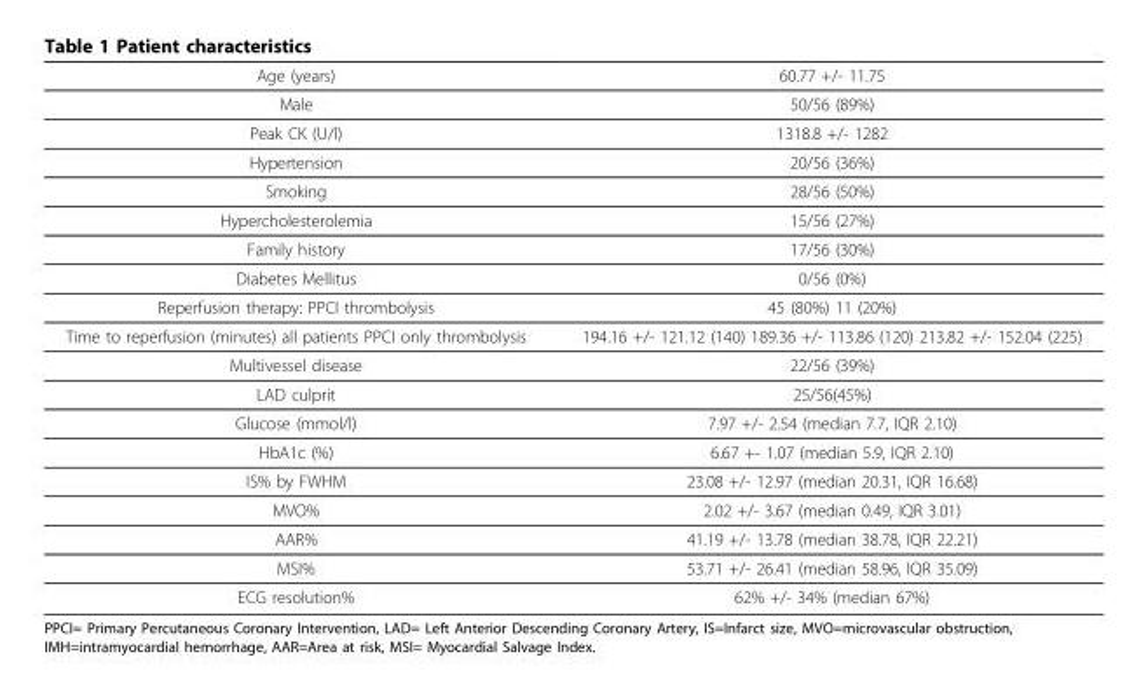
<table><thead><tr><td>Age (years)</td><td>60.77 +/- 11.75</td></tr></thead><tbody><tr><td>Male</td><td>50/56 (89%)</td></tr><tr><td>Peak CK (U/l)</td><td>1318.8 +/- 1282</td></tr><tr><td>Hypertension</td><td>20/56 (36%)</td></tr><tr><td>Smoking</td><td>28/56 (50%)</td></tr><tr><td>Hypercholesterolemia</td><td>15/56 (27%)</td></tr><tr><td>Family history</td><td>17/56 (30%)</td></tr><tr><td>Diabetes Mellitus</td><td>0/56 (0%)</td></tr><tr><td>Reperfusion therapy: PPCI thrombolysis</td><td>45 (80%) 11 (20%)</td></tr><tr><td>Time to reperfusion (minutes) all patients PPCI only thrombolysis</td><td>194.16 +/- 121.12 (140) 189.36 +/- 113.86 (120) 213.82 +/- 152.04 (225)</td></tr><tr><td>Multivessel disease</td><td>22/56 (39%)</td></tr><tr><td>LAD culprit</td><td>25/56(45%)</td></tr><tr><td>Glucose (mmol/l)</td><td>7.97 +/- 2.54 (median 7.7, IQR 2.10)</td></tr><tr><td>HbA1c (%)</td><td>6.67 +- 1.07 (median 5.9, IQR 2.10)</td></tr><tr><td>IS% by FWHM</td><td>23.08 +/- 12.97 (median 20.31, IQR 16.68)</td></tr><tr><td>MVO%</td><td>2.02 +/- 3.67 (median 0.49, IQR 3.01)</td></tr><tr><td>AAR%</td><td>41.19 +/- 13.78 (median 38.78, IQR 22.21)</td></tr><tr><td>MSI%</td><td>53.71 +/- 26.41 (median 58.96, IQR 35.09)</td></tr><tr><td>ECG resolution%</td><td>62% +/- 34% (median 67%)</td></tr></tbody></table>